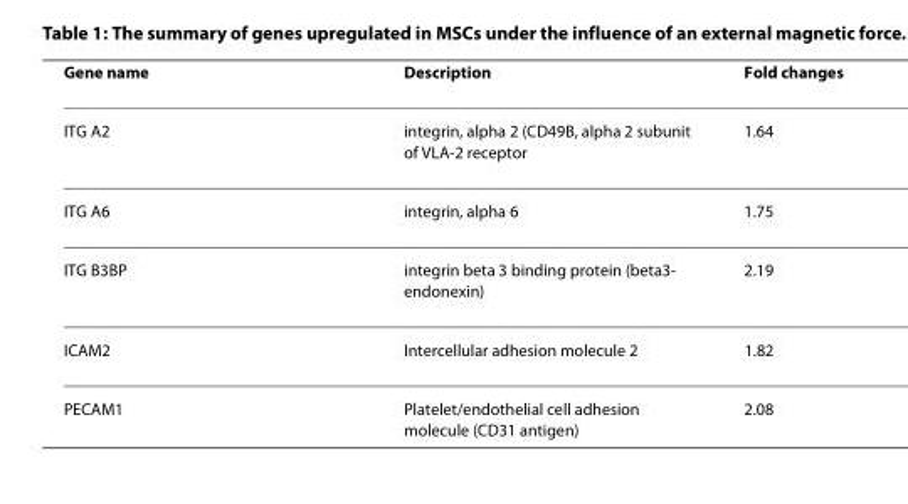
<table><thead><tr><td>Gene name</td><td>Description</td><td>Fold changes</td></tr></thead><tbody><tr><td>ITG A2</td><td>integrin, alpha 2 (CD49B, alpha 2 subunit of VLA-2 receptor</td><td>1.64</td></tr><tr><td>ITG A6</td><td>integrin, alpha 6</td><td>1.75</td></tr><tr><td>ITG B3BP</td><td>integrin beta 3 binding protein (beta3- endonexin)</td><td>2.19</td></tr><tr><td>ICAM2</td><td>Intercellular adhesion molecule 2</td><td>1.82</td></tr><tr><td>PECAM1</td><td>Platelet/endothelial cell adhesion molecule (CD31 antigen)</td><td>2.08</td></tr></tbody></table>